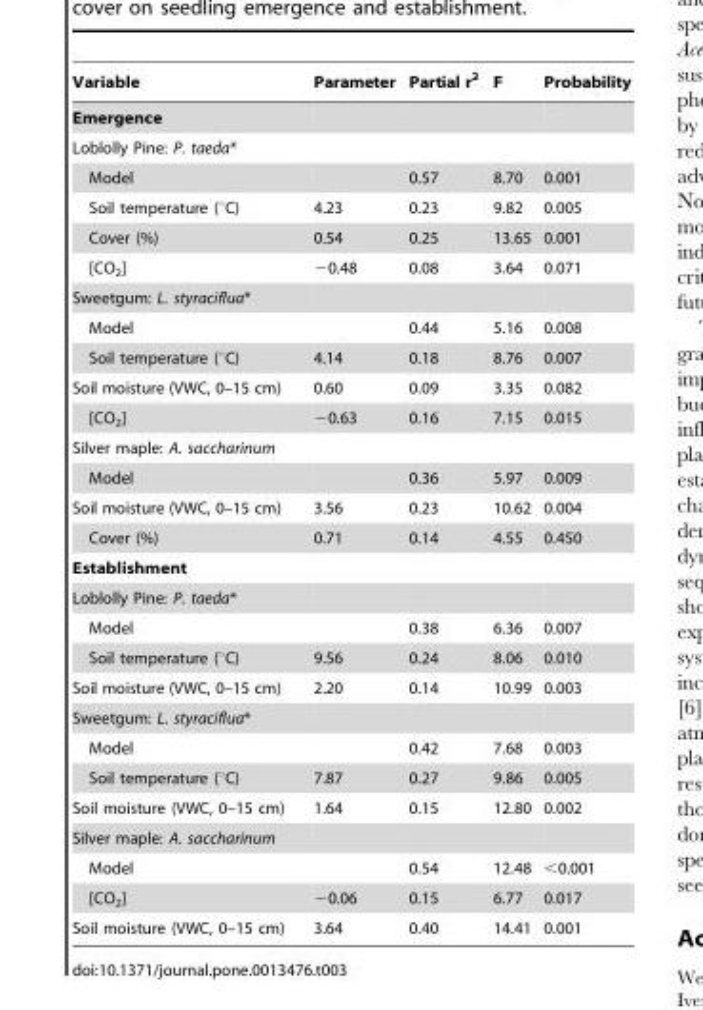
<table><thead><tr><td>Variable</td><td>Parameter</td><td>Partial r<sup>2</sup></td><td>F</td><td>Probability</td></tr></thead><tbody><tr><td colspan="5">Emergence</td></tr><tr><td colspan="5">Loblolly Pine: P. taeda*</td></tr><tr><td>Model</td><td></td><td>0.57</td><td>8.70</td><td>0.001</td></tr><tr><td>Soil temperature (°C)</td><td>4.23</td><td>0.23</td><td>9.82</td><td>0.005</td></tr><tr><td>Cover (%)</td><td>0.54</td><td>0.25</td><td>13.65</td><td>0.001</td></tr><tr><td>[CO<sub>2</sub>]</td><td>−0.48</td><td>0.08</td><td>3.64</td><td>0.071</td></tr><tr><td colspan="5">Sweetgum: L. styraciflua*</td></tr><tr><td>Model</td><td></td><td>0.44</td><td>5.16</td><td>0.008</td></tr><tr><td>Soil temperature (°C)</td><td>4.14</td><td>0.18</td><td>8.76</td><td>0.007</td></tr><tr><td>Soil moisture (VWC, 0–15 cm)</td><td>0.60</td><td>0.09</td><td>3.35</td><td>0.082</td></tr><tr><td>[CO<sub>2</sub>]</td><td>−0.63</td><td>0.16</td><td>7.15</td><td>0.015</td></tr><tr><td colspan="5">Silver maple: A. saccharinum</td></tr><tr><td>Model</td><td></td><td>0.36</td><td>5.97</td><td>0.009</td></tr><tr><td>Soil moisture (VWC, 0–15 cm)</td><td>3.56</td><td>0.23</td><td>10.62</td><td>0.004</td></tr><tr><td>Cover (%)</td><td>0.71</td><td>0.14</td><td>4.55</td><td>0.450</td></tr><tr><td colspan="5">Establishment</td></tr><tr><td colspan="5">Loblolly Pine: P. taeda*</td></tr><tr><td>Model</td><td></td><td>0.38</td><td>6.36</td><td>0.007</td></tr><tr><td>Soil temperature (°C)</td><td>9.56</td><td>0.24</td><td>8.06</td><td>0.010</td></tr><tr><td>Soil moisture (VWC, 0–15 cm)</td><td>2.20</td><td>0.14</td><td>10.99</td><td>0.003</td></tr><tr><td colspan="5">Sweetgum: L. styraciflua*</td></tr><tr><td>Model</td><td></td><td>0.42</td><td>7.68</td><td>0.003</td></tr><tr><td>Soil temperature (°C)</td><td>7.87</td><td>0.27</td><td>9.86</td><td>0.005</td></tr><tr><td>Soil moisture (VWC, 0–15 cm)</td><td>1.64</td><td>0.15</td><td>12.80</td><td>0.002</td></tr><tr><td colspan="5">Silver maple: A. saccharinum</td></tr><tr><td>Model</td><td></td><td>0.54</td><td>12.48</td><td>&lt;0.001</td></tr><tr><td>[CO<sub>2</sub>]</td><td>−0.06</td><td>0.15</td><td>6.77</td><td>0.017</td></tr><tr><td>Soil moisture (VWC, 0–15 cm)</td><td>3.64</td><td>0.40</td><td>14.41</td><td>0.001</td></tr></tbody></table>